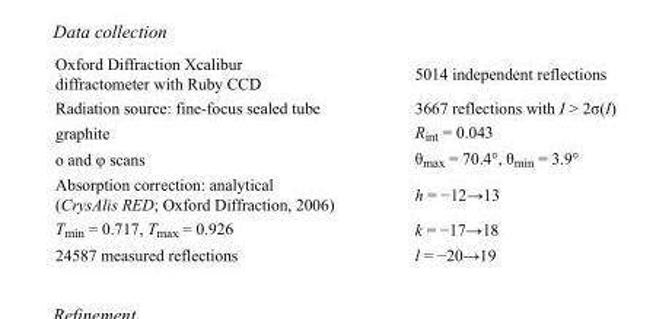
<table><tbody><tr><td>Oxford Diffraction Xcalibur diffractometer with Ruby CCD</td><td>5014 independent reflections</td></tr><tr><td>Radiation source: fine-focus sealed tube</td><td>3667 reflections with I &gt; 2σ(I)</td></tr><tr><td>graphite</td><td>R<sub>int</sub> = 0.043</td></tr><tr><td>ο and φ scans</td><td>θ<sub>max</sub> = 70.4°, θ<sub>min</sub> = 3.9°</td></tr><tr><td>Absorption correction: analytical (CrysAlis RED; Oxford Diffraction, 2006)</td><td>h = −12→13</td></tr><tr><td>T<sub>min</sub> = 0.717, T<sub>max</sub> = 0.926</td><td>k = −17→18</td></tr><tr><td>24587 measured reflections</td><td>l = −20→19</td></tr></tbody></table>